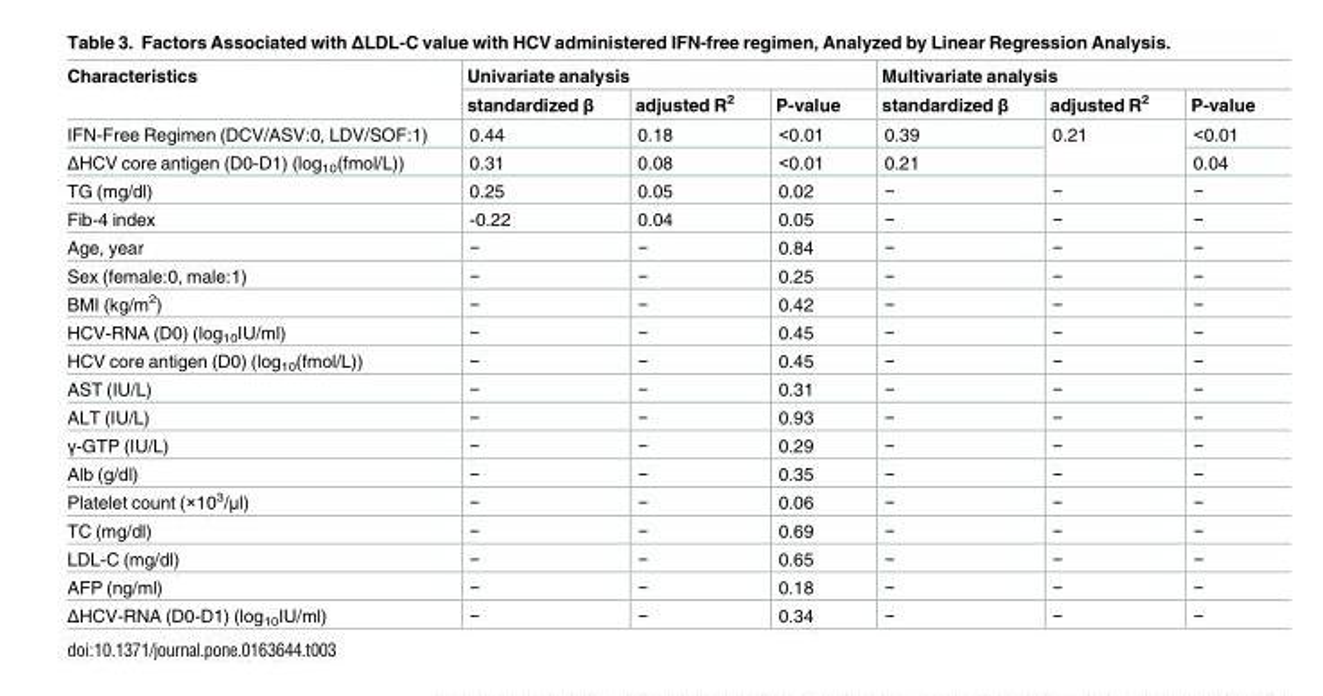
<table><thead><tr><td rowspan="2">Characteristics</td><td colspan="3">Univariate analysis</td><td colspan="3">Multivariate analysis</td></tr><tr><td>standardized β</td><td>adjusted R<sup>2</sup></td><td>P-value</td><td>standardized β</td><td>adjusted R<sup>2</sup></td><td>P-value</td></tr></thead><tbody><tr><td>IFN-Free Regimen (DCV/ASV:0, LDV/SOF:1)</td><td>0.44</td><td>0.18</td><td>&lt;0.01</td><td>0.39</td><td rowspan="2">0.21</td><td>&lt;0.01</td></tr><tr><td>ΔHCV core antigen (D0-D1) (log<sub>10</sub>(fmol/L))</td><td>0.31</td><td>0.08</td><td>&lt;0.01</td><td>0.21</td><td>0.04</td></tr><tr><td>TG (mg/dl)</td><td>0.25</td><td>0.05</td><td>0.02</td><td>−</td><td>−</td><td>−</td></tr><tr><td>Fib-4 index</td><td>-0.22</td><td>0.04</td><td>0.05</td><td>−</td><td>−</td><td>−</td></tr><tr><td>Age, year</td><td>−</td><td>−</td><td>0.84</td><td>−</td><td>−</td><td>−</td></tr><tr><td>Sex (female:0, male:1)</td><td>−</td><td>−</td><td>0.25</td><td>−</td><td>−</td><td>−</td></tr><tr><td>BMI (kg/m<sup>2</sup>)</td><td>−</td><td>−</td><td>0.42</td><td>−</td><td>−</td><td>−</td></tr><tr><td>HCV-RNA (D0) (log<sub>10</sub>IU/ml)</td><td>−</td><td>−</td><td>0.45</td><td>−</td><td>−</td><td>−</td></tr><tr><td>HCV core antigen (D0) (log<sub>10</sub>(fmol/L))</td><td>−</td><td>−</td><td>0.45</td><td>−</td><td>−</td><td>−</td></tr><tr><td>AST (IU/L)</td><td>−</td><td>−</td><td>0.31</td><td>−</td><td>−</td><td>−</td></tr><tr><td>ALT (IU/L)</td><td>−</td><td>−</td><td>0.93</td><td>−</td><td>−</td><td>−</td></tr><tr><td>γ-GTP (IU/L)</td><td>−</td><td>−</td><td>0.29</td><td>−</td><td>−</td><td>−</td></tr><tr><td>Alb (g/dl)</td><td>−</td><td>−</td><td>0.35</td><td>−</td><td>−</td><td>−</td></tr><tr><td>Platelet count (×10<sup>3</sup>/μl)</td><td>−</td><td>−</td><td>0.06</td><td>−</td><td>−</td><td>−</td></tr><tr><td>TC (mg/dl)</td><td>−</td><td>−</td><td>0.69</td><td>−</td><td>−</td><td>−</td></tr><tr><td>LDL-C (mg/dl)</td><td>−</td><td>−</td><td>0.65</td><td>−</td><td>−</td><td>−</td></tr><tr><td>AFP (ng/ml)</td><td>−</td><td>−</td><td>0.18</td><td>−</td><td>−</td><td>−</td></tr><tr><td>ΔHCV-RNA (D0-D1) (log<sub>10</sub>IU/ml)</td><td>−</td><td>−</td><td>0.34</td><td>−</td><td>−</td><td>−</td></tr></tbody></table>